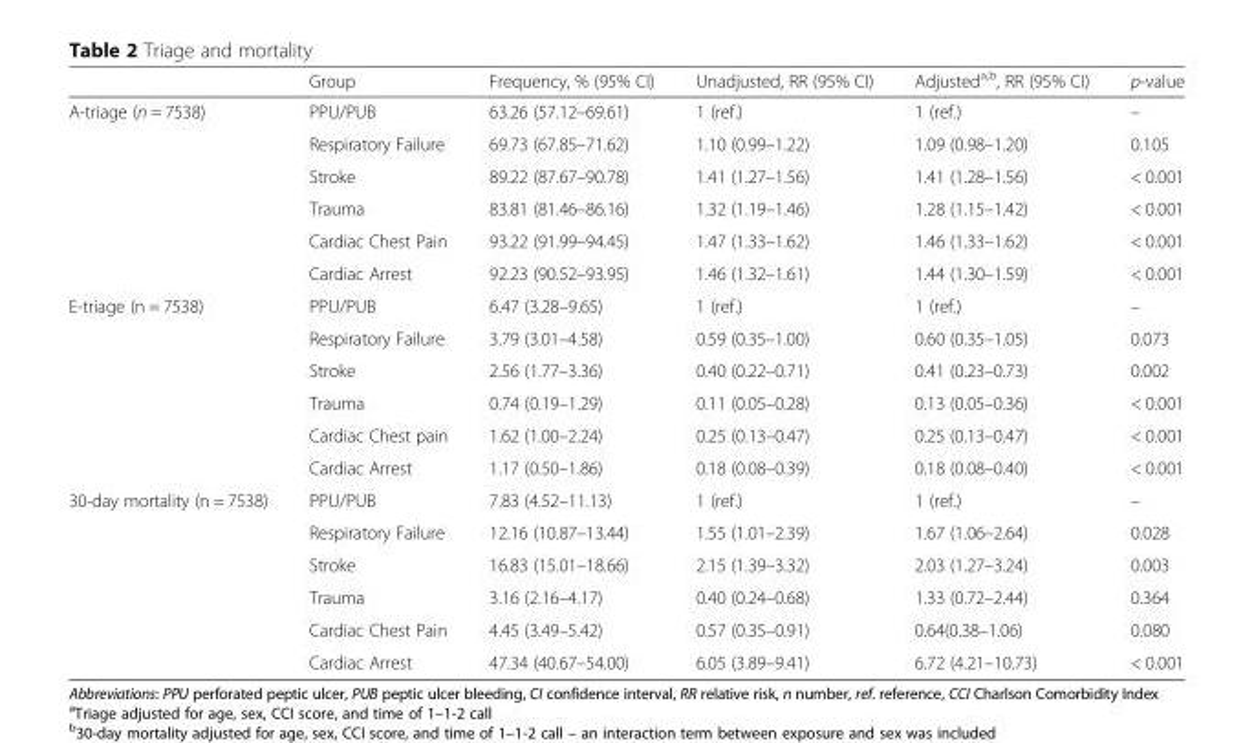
<table><thead><tr><td></td><td>Group</td><td>Frequency, % (95% CI)</td><td>Unadjusted, RR (95% CI)</td><td>Adjusted<sup>a,b</sup>, RR (95% CI)</td><td>p-value</td></tr></thead><tbody><tr><td rowspan="6">A-triage (n = 7538)</td><td>PPU/PUB</td><td>63.26 (57.12–69.61)</td><td>1 (ref.)</td><td>1 (ref.)</td><td>–</td></tr><tr><td>Respiratory Failure</td><td>69.73 (67.85–71.62)</td><td>1.10 (0.99–1.22)</td><td>1.09 (0.98–1.20)</td><td>0.105</td></tr><tr><td>Stroke</td><td>89.22 (87.67–90.78)</td><td>1.41 (1.27–1.56)</td><td>1.41 (1.28–1.56)</td><td>&lt; 0.001</td></tr><tr><td>Trauma</td><td>83.81 (81.46–86.16)</td><td>1.32 (1.19–1.46)</td><td>1.28 (1.15–1.42)</td><td>&lt; 0.001</td></tr><tr><td>Cardiac Chest Pain</td><td>93.22 (91.99–94.45)</td><td>1.47 (1.33–1.62)</td><td>1.46 (1.33–1.62)</td><td>&lt; 0.001</td></tr><tr><td>Cardiac Arrest</td><td>92.23 (90.52–93.95)</td><td>1.46 (1.32–1.61)</td><td>1.44 (1.30–1.59)</td><td>&lt; 0.001</td></tr><tr><td rowspan="6">E-triage (n = 7538)</td><td>PPU/PUB</td><td>6.47 (3.28–9.65)</td><td>1 (ref.)</td><td>1 (ref.)</td><td>–</td></tr><tr><td>Respiratory Failure</td><td>3.79 (3.01–4.58)</td><td>0.59 (0.35–1.00)</td><td>0.60 (0.35–1.05)</td><td>0.073</td></tr><tr><td>Stroke</td><td>2.56 (1.77–3.36)</td><td>0.40 (0.22–0.71)</td><td>0.41 (0.23–0.73)</td><td>0.002</td></tr><tr><td>Trauma</td><td>0.74 (0.19–1.29)</td><td>0.11 (0.05–0.28)</td><td>0.13 (0.05–0.36)</td><td>&lt; 0.001</td></tr><tr><td>Cardiac Chest pain</td><td>1.62 (1.00–2.24)</td><td>0.25 (0.13–0.47)</td><td>0.25 (0.13–0.47)</td><td>&lt; 0.001</td></tr><tr><td>Cardiac Arrest</td><td>1.17 (0.50–1.86)</td><td>0.18 (0.08–0.39)</td><td>0.18 (0.08–0.40)</td><td>&lt; 0.001</td></tr><tr><td rowspan="6">30-day mortality (n = 7538)</td><td>PPU/PUB</td><td>7.83 (4.52–11.13)</td><td>1 (ref.)</td><td>1 (ref.)</td><td>–</td></tr><tr><td>Respiratory Failure</td><td>12.16 (10.87–13.44)</td><td>1.55 (1.01–2.39)</td><td>1.67 (1.06–2.64)</td><td>0.028</td></tr><tr><td>Stroke</td><td>16.83 (15.01–18.66)</td><td>2.15 (1.39–3.32)</td><td>2.03 (1.27–3.24)</td><td>0.003</td></tr><tr><td>Trauma</td><td>3.16 (2.16–4.17)</td><td>0.40 (0.24–0.68)</td><td>1.33 (0.72–2.44)</td><td>0.364</td></tr><tr><td>Cardiac Chest Pain</td><td>4.45 (3.49–5.42)</td><td>0.57 (0.35–0.91)</td><td>0.64(0.38–1.06)</td><td>0.080</td></tr><tr><td>Cardiac Arrest</td><td>47.34 (40.67–54.00)</td><td>6.05 (3.89–9.41)</td><td>6.72 (4.21–10.73)</td><td>&lt; 0.001</td></tr></tbody></table>